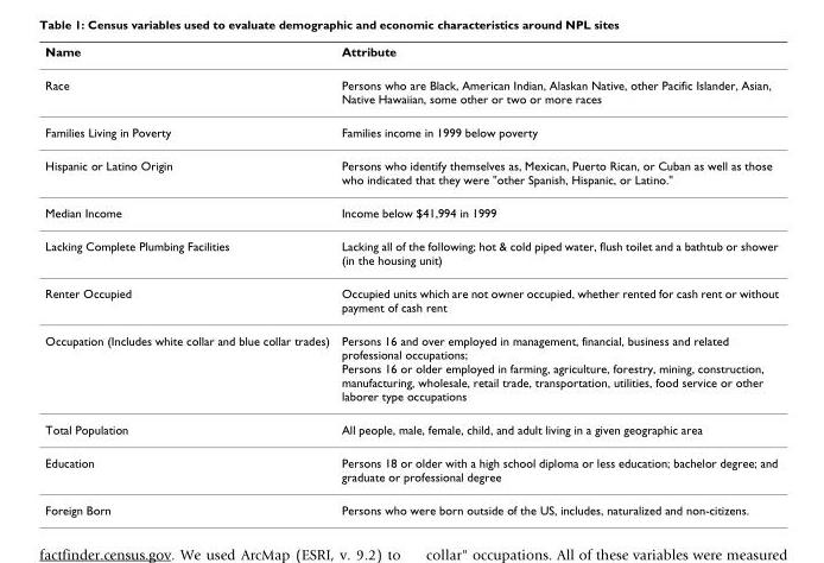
<table><thead><tr><td>Name</td><td>Attribute</td></tr></thead><tbody><tr><td>Race</td><td>Persons who are Black, American Indian, Alaskan Native, other Pacific Islander, Asian, Native Hawaiian, some other or two or more races</td></tr><tr><td>Families Living in Poverty</td><td>Families income in 1999 below poverty</td></tr><tr><td>Hispanic or Latino Origin</td><td>Persons who identify themselves as, Mexican, Puerto Rican, or Cuban as well as those who indicated that they were &quot;other Spanish, Hispanic, or Latino.&quot;</td></tr><tr><td>Median Income</td><td>Income below $41,994 in 1999</td></tr><tr><td>Lacking Complete Plumbing Facilities</td><td>Lacking all of the following; hot &amp; cold piped water, flush toilet and a bathtub or shower (in the housing unit)</td></tr><tr><td>Renter Occupied</td><td>Occupied units which are not owner occupied, whether rented for cash rent or without payment of cash rent</td></tr><tr><td>Occupation (Includes white collar and blue collar trades)</td><td>Persons 16 and over employed in management, financial, business and related professional occupations; Persons 16 or older employed in farming, agriculture, forestry, mining, construction, manufacturing, wholesale, retail trade, transportation, utilities, food service or other laborer type occupations</td></tr><tr><td>Total Population</td><td>All people, male, female, child, and adult living in a given geographic area</td></tr><tr><td>Education</td><td>Persons 18 or older with a high school diploma or less education; bachelor degree; and graduate or professional degree</td></tr><tr><td>Foreign Born</td><td>Persons who were born outside of the US, includes, naturalized and non-citizens.</td></tr></tbody></table>